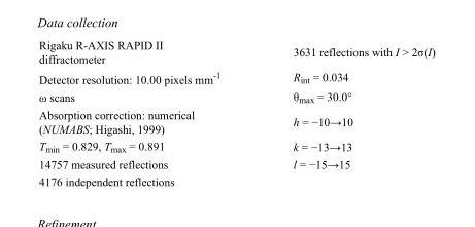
<table><tbody><tr><td>Rigaku R-AXIS RAPID II diffractometer</td><td>3631 reflections with I &gt; 2σ(I)</td></tr><tr><td>Detector resolution: 10.00 pixels mm<sup>-1</sup></td><td>R<sub>int</sub> = 0.034</td></tr><tr><td>ω scans</td><td>θ<sub>max</sub> = 30.0°</td></tr><tr><td>Absorption correction: numerical (NUMABS; Higashi, 1999)</td><td>h = −10→10</td></tr><tr><td>T<sub>min</sub> = 0.829, T<sub>max</sub> = 0.891</td><td>k = −13→13</td></tr><tr><td>14757 measured reflections</td><td>l = −15→15</td></tr><tr><td>4176 independent reflections</td><td></td></tr></tbody></table>